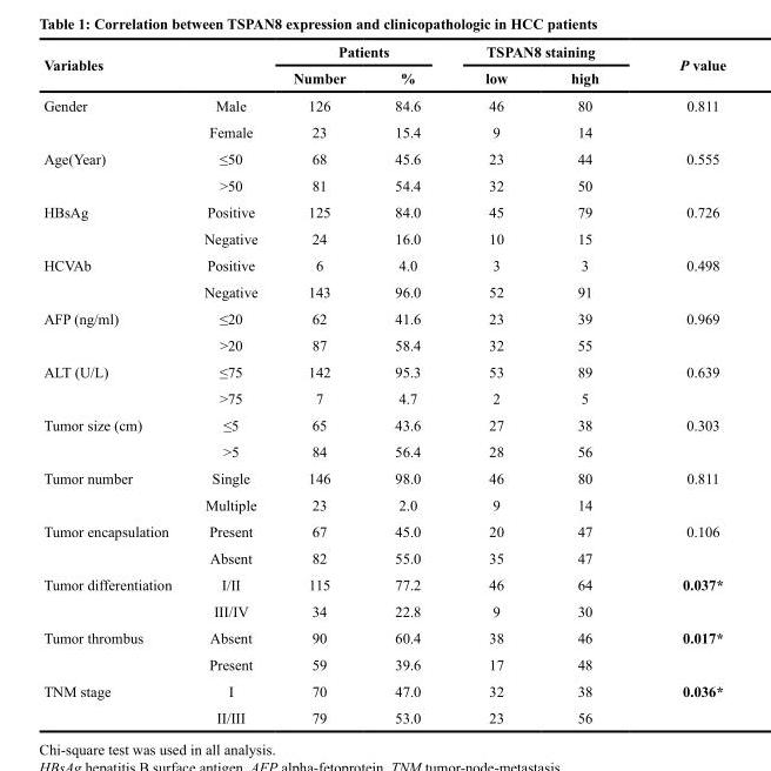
<table><thead><tr><td rowspan="2">Variables</td><td rowspan="2"></td><td colspan="2">Patients</td><td colspan="2">TSPAN8 staining</td><td rowspan="2">P value</td></tr><tr><td>Number</td><td>%</td><td>low</td><td>high</td></tr></thead><tbody><tr><td rowspan="2">Gender</td><td>Male</td><td>126</td><td>84.6</td><td>46</td><td>80</td><td>0.811</td></tr><tr><td>Female</td><td>23</td><td>15.4</td><td>9</td><td>14</td><td></td></tr><tr><td rowspan="2">Age(Year)</td><td>≤50</td><td>68</td><td>45.6</td><td>23</td><td>44</td><td>0.555</td></tr><tr><td>&gt;50</td><td>81</td><td>54.4</td><td>32</td><td>50</td><td></td></tr><tr><td rowspan="2">HBsAg</td><td>Positive</td><td>125</td><td>84.0</td><td>45</td><td>79</td><td>0.726</td></tr><tr><td>Negative</td><td>24</td><td>16.0</td><td>10</td><td>15</td><td></td></tr><tr><td rowspan="2">HCVAb</td><td>Positive</td><td>6</td><td>4.0</td><td>3</td><td>3</td><td>0.498</td></tr><tr><td>Negative</td><td>143</td><td>96.0</td><td>52</td><td>91</td><td></td></tr><tr><td rowspan="2">AFP (ng/ml)</td><td>≤20</td><td>62</td><td>41.6</td><td>23</td><td>39</td><td>0.969</td></tr><tr><td>&gt;20</td><td>87</td><td>58.4</td><td>32</td><td>55</td><td></td></tr><tr><td rowspan="2">ALT (U/L)</td><td>≤75</td><td>142</td><td>95.3</td><td>53</td><td>89</td><td>0.639</td></tr><tr><td>&gt;75</td><td>7</td><td>4.7</td><td>2</td><td>5</td><td></td></tr><tr><td rowspan="2">Tumor size (cm)</td><td>≤5</td><td>65</td><td>43.6</td><td>27</td><td>38</td><td>0.303</td></tr><tr><td>&gt;5</td><td>84</td><td>56.4</td><td>28</td><td>56</td><td></td></tr><tr><td rowspan="2">Tumor number</td><td>Single</td><td>146</td><td>98.0</td><td>46</td><td>80</td><td>0.811</td></tr><tr><td>Multiple</td><td>23</td><td>2.0</td><td>9</td><td>14</td><td></td></tr><tr><td rowspan="2">Tumor encapsulation</td><td>Present</td><td>67</td><td>45.0</td><td>20</td><td>47</td><td>0.106</td></tr><tr><td>Absent</td><td>82</td><td>55.0</td><td>35</td><td>47</td><td></td></tr><tr><td rowspan="2">Tumor differentiation</td><td>I/II</td><td>115</td><td>77.2</td><td>46</td><td>64</td><td>0.037*</td></tr><tr><td>III/IV</td><td>34</td><td>22.8</td><td>9</td><td>30</td><td></td></tr><tr><td rowspan="2">Tumor thrombus</td><td>Absent</td><td>90</td><td>60.4</td><td>38</td><td>46</td><td>0.017*</td></tr><tr><td>Present</td><td>59</td><td>39.6</td><td>17</td><td>48</td><td></td></tr><tr><td rowspan="2">TNM stage</td><td>I</td><td>70</td><td>47.0</td><td>32</td><td>38</td><td>0.036*</td></tr><tr><td>II/III</td><td>79</td><td>53.0</td><td>23</td><td>56</td><td></td></tr></tbody></table>